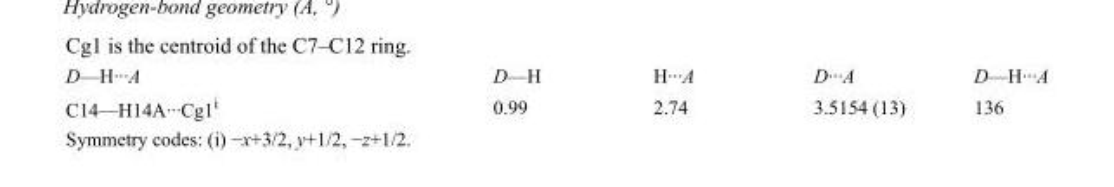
<table><tbody><tr><td>D—H···A</td><td>D—H</td><td>H···A</td><td>D···A</td><td>D—H···A</td></tr><tr><td>C14—H14A···Cg1<sup>i</sup></td><td>0.99</td><td>2.74</td><td>3.5154 (13)</td><td>136</td></tr></tbody></table>